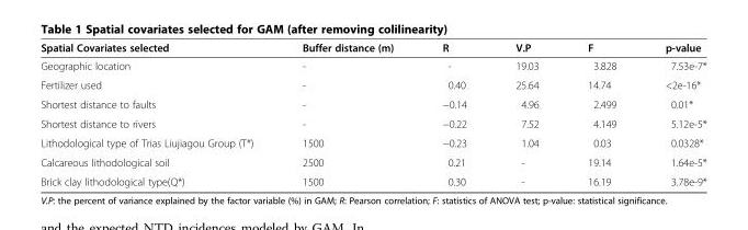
<table><thead><tr><td>Spatial Covariates selected</td><td>Buffer distance (m)</td><td>R</td><td>V.P</td><td>F</td><td>p-value</td></tr></thead><tbody><tr><td>Geographic location</td><td>-</td><td>-</td><td>19.03</td><td>3.828</td><td>7.53e-7*</td></tr><tr><td>Fertilizer used</td><td>-</td><td>0.40</td><td>25.64</td><td>14.74</td><td>&lt;2e-16*</td></tr><tr><td>Shortest distance to faults</td><td>-</td><td>−0.14</td><td>4.96</td><td>2.499</td><td>0.01*</td></tr><tr><td>Shortest distance to rivers</td><td>-</td><td>−0.22</td><td>7.52</td><td>4.149</td><td>5.12e-5*</td></tr><tr><td>Lithodological type of Trias Liujiagou Group (T*)</td><td>1500</td><td>−0.23</td><td>1.04</td><td>0.03</td><td>0.0328*</td></tr><tr><td>Calcareous lithodological soil</td><td>2500</td><td>0.21</td><td>-</td><td>19.14</td><td>1.64e-5*</td></tr><tr><td>Brick clay lithodological type(Q*)</td><td>1500</td><td>0.30</td><td>-</td><td>16.19</td><td>3.78e-9*</td></tr></tbody></table>